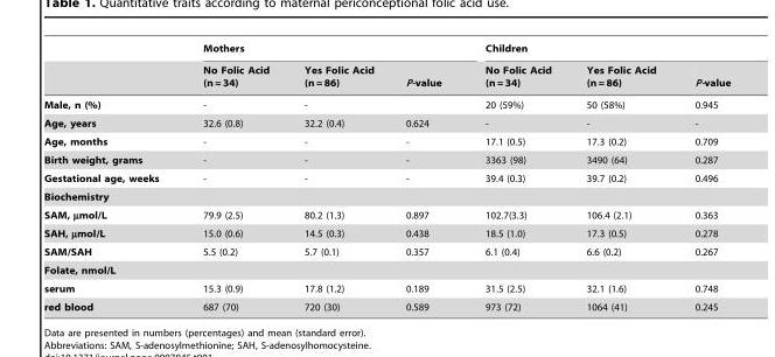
<table><thead><tr><td rowspan="2"></td><td colspan="3">Mothers</td><td colspan="3">Children</td></tr><tr><td>No Folic Acid (n = 34)</td><td>Yes Folic Acid (n = 86)</td><td>P-value</td><td>No Folic Acid (n = 34)</td><td>Yes Folic Acid (n = 86)</td><td>P-value</td></tr></thead><tbody><tr><td>Male, n (%)</td><td>-</td><td>-</td><td></td><td>20 (59%)</td><td>50 (58%)</td><td>0.945</td></tr><tr><td>Age, years</td><td>32.6 (0.8)</td><td>32.2 (0.4)</td><td>0.624</td><td>-</td><td>-</td><td>-</td></tr><tr><td>Age, months</td><td>-</td><td>-</td><td>-</td><td>17.1 (0.5)</td><td>17.3 (0.2)</td><td>0.709</td></tr><tr><td>Birth weight, grams</td><td>-</td><td>-</td><td>-</td><td>3363 (98)</td><td>3490 (64)</td><td>0.287</td></tr><tr><td>Gestational age, weeks</td><td>-</td><td>-</td><td>-</td><td>39.4 (0.3)</td><td>39.7 (0.2)</td><td>0.496</td></tr><tr><td colspan="7">Biochemistry</td></tr><tr><td>SAM, µmol/L</td><td>79.9 (2.5)</td><td>80.2 (1.3)</td><td>0.897</td><td>102.7(3.3)</td><td>106.4 (2.1)</td><td>0.363</td></tr><tr><td>SAH, µmol/L</td><td>15.0 (0.6)</td><td>14.5 (0.3)</td><td>0.438</td><td>18.5 (1.0)</td><td>17.3 (0.5)</td><td>0.278</td></tr><tr><td>SAM/SAH</td><td>5.5 (0.2)</td><td>5.7 (0.1)</td><td>0.357</td><td>6.1 (0.4)</td><td>6.6 (0.2)</td><td>0.267</td></tr><tr><td colspan="7">Folate, nmol/L</td></tr><tr><td>serum</td><td>15.3 (0.9)</td><td>17.8 (1.2)</td><td>0.189</td><td>31.5 (2.5)</td><td>32.1 (1.6)</td><td>0.748</td></tr><tr><td>red blood</td><td>687 (70)</td><td>720 (30)</td><td>0.589</td><td>973 (72)</td><td>1064 (41)</td><td>0.245</td></tr></tbody></table>